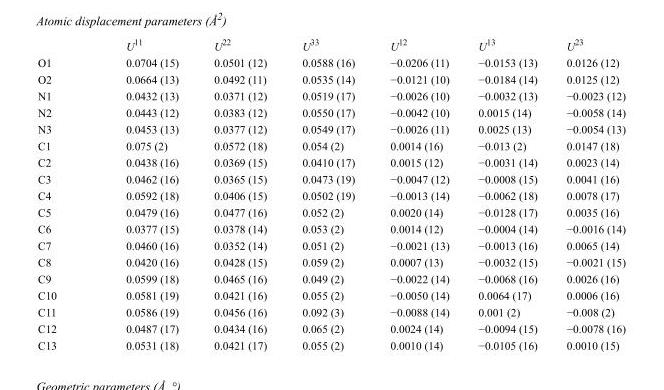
<table><thead><tr><td></td><td>U<sup>11</sup></td><td>U<sup>22</sup></td><td>U<sup>33</sup></td><td>U<sup>12</sup></td><td>U<sup>13</sup></td><td>U<sup>23</sup></td></tr></thead><tbody><tr><td>O1</td><td>0.0704 (15)</td><td>0.0501 (12)</td><td>0.0588 (16)</td><td>−0.0206 (11)</td><td>−0.0153 (13)</td><td>0.0126 (12)</td></tr><tr><td>O2</td><td>0.0664 (13)</td><td>0.0492 (11)</td><td>0.0535 (14)</td><td>−0.0121 (10)</td><td>−0.0184 (14)</td><td>0.0125 (12)</td></tr><tr><td>N1</td><td>0.0432 (13)</td><td>0.0371 (12)</td><td>0.0519 (17)</td><td>−0.0026 (10)</td><td>−0.0032 (13)</td><td>−0.0023 (12)</td></tr><tr><td>N2</td><td>0.0443 (12)</td><td>0.0383 (12)</td><td>0.0550 (17)</td><td>−0.0042 (10)</td><td>0.0015 (14)</td><td>−0.0058 (14)</td></tr><tr><td>N3</td><td>0.0453 (13)</td><td>0.0377 (12)</td><td>0.0549 (17)</td><td>−0.0026 (11)</td><td>0.0025 (13)</td><td>−0.0054 (13)</td></tr><tr><td>C1</td><td>0.075 (2)</td><td>0.0572 (18)</td><td>0.054 (2)</td><td>0.0014 (16)</td><td>−0.013 (2)</td><td>0.0147 (18)</td></tr><tr><td>C2</td><td>0.0438 (16)</td><td>0.0369 (15)</td><td>0.0410 (17)</td><td>0.0015 (12)</td><td>−0.0031 (14)</td><td>0.0023 (14)</td></tr><tr><td>C3</td><td>0.0462 (16)</td><td>0.0365 (15)</td><td>0.0473 (19)</td><td>−0.0047 (12)</td><td>−0.0008 (15)</td><td>0.0041 (16)</td></tr><tr><td>C4</td><td>0.0592 (18)</td><td>0.0406 (15)</td><td>0.0502 (19)</td><td>−0.0013 (14)</td><td>−0.0062 (18)</td><td>0.0078 (17)</td></tr><tr><td>C5</td><td>0.0479 (16)</td><td>0.0477 (16)</td><td>0.052 (2)</td><td>0.0020 (14)</td><td>−0.0128 (17)</td><td>0.0035 (16)</td></tr><tr><td>C6</td><td>0.0377 (15)</td><td>0.0378 (14)</td><td>0.053 (2)</td><td>0.0014 (12)</td><td>−0.0004 (14)</td><td>−0.0016 (14)</td></tr><tr><td>C7</td><td>0.0460 (16)</td><td>0.0352 (14)</td><td>0.051 (2)</td><td>−0.0021 (13)</td><td>−0.0013 (16)</td><td>0.0065 (14)</td></tr><tr><td>C8</td><td>0.0420 (16)</td><td>0.0428 (15)</td><td>0.059 (2)</td><td>0.0007 (13)</td><td>−0.0032 (15)</td><td>−0.0021 (15)</td></tr><tr><td>C9</td><td>0.0599 (18)</td><td>0.0465 (16)</td><td>0.049 (2)</td><td>−0.0022 (14)</td><td>−0.0068 (16)</td><td>0.0026 (16)</td></tr><tr><td>C10</td><td>0.0581 (19)</td><td>0.0421 (16)</td><td>0.055 (2)</td><td>−0.0050 (14)</td><td>0.0064 (17)</td><td>0.0006 (16)</td></tr><tr><td>C11</td><td>0.0586 (19)</td><td>0.0456 (16)</td><td>0.092 (3)</td><td>−0.0088 (14)</td><td>0.001 (2)</td><td>−0.008 (2)</td></tr><tr><td>C12</td><td>0.0487 (17)</td><td>0.0434 (16)</td><td>0.065 (2)</td><td>0.0024 (14)</td><td>−0.0094 (15)</td><td>−0.0078 (16)</td></tr><tr><td>C13</td><td>0.0531 (18)</td><td>0.0421 (17)</td><td>0.055 (2)</td><td>0.0010 (14)</td><td>−0.0105 (16)</td><td>0.0010 (15)</td></tr></tbody></table>